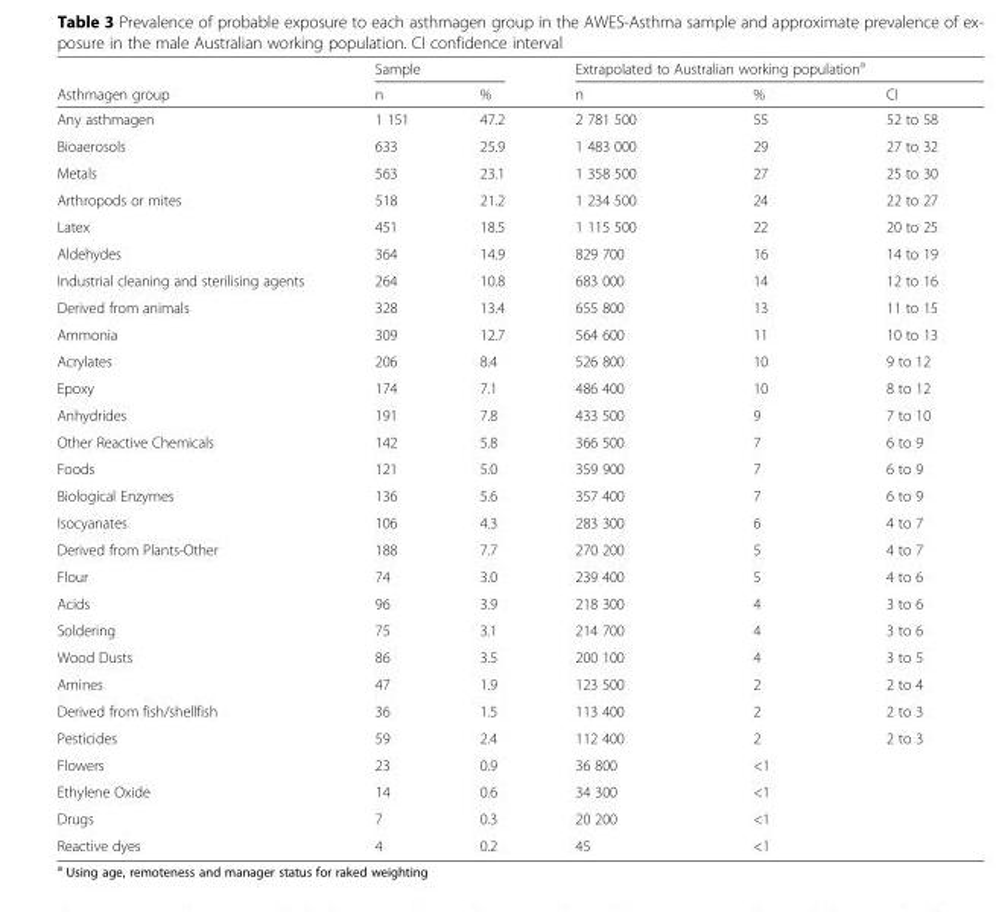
<table><thead><tr><td rowspan="2">Asthmagen group</td><td colspan="2">Sample</td><td colspan="3">Extrapolated to Australian working population<sup>a</sup></td></tr><tr><td>n</td><td>%</td><td>n</td><td>%</td><td>CI</td></tr></thead><tbody><tr><td>Any asthmagen</td><td>1 151</td><td>47.2</td><td>2 781 500</td><td>55</td><td>52 to 58</td></tr><tr><td>Bioaerosols</td><td>633</td><td>25.9</td><td>1 483 000</td><td>29</td><td>27 to 32</td></tr><tr><td>Metals</td><td>563</td><td>23.1</td><td>1 358 500</td><td>27</td><td>25 to 30</td></tr><tr><td>Arthropods or mites</td><td>518</td><td>21.2</td><td>1 234 500</td><td>24</td><td>22 to 27</td></tr><tr><td>Latex</td><td>451</td><td>18.5</td><td>1 115 500</td><td>22</td><td>20 to 25</td></tr><tr><td>Aldehydes</td><td>364</td><td>14.9</td><td>829 700</td><td>16</td><td>14 to 19</td></tr><tr><td>Industrial cleaning and sterilising agents</td><td>264</td><td>10.8</td><td>683 000</td><td>14</td><td>12 to 16</td></tr><tr><td>Derived from animals</td><td>328</td><td>13.4</td><td>655 800</td><td>13</td><td>11 to 15</td></tr><tr><td>Ammonia</td><td>309</td><td>12.7</td><td>564 600</td><td>11</td><td>10 to 13</td></tr><tr><td>Acrylates</td><td>206</td><td>8.4</td><td>526 800</td><td>10</td><td>9 to 12</td></tr><tr><td>Epoxy</td><td>174</td><td>7.1</td><td>486 400</td><td>10</td><td>8 to 12</td></tr><tr><td>Anhydrides</td><td>191</td><td>7.8</td><td>433 500</td><td>9</td><td>7 to 10</td></tr><tr><td>Other Reactive Chemicals</td><td>142</td><td>5.8</td><td>366 500</td><td>7</td><td>6 to 9</td></tr><tr><td>Foods</td><td>121</td><td>5.0</td><td>359 900</td><td>7</td><td>6 to 9</td></tr><tr><td>Biological Enzymes</td><td>136</td><td>5.6</td><td>357 400</td><td>7</td><td>6 to 9</td></tr><tr><td>Isocyanates</td><td>106</td><td>4.3</td><td>283 300</td><td>6</td><td>4 to 7</td></tr><tr><td>Derived from Plants-Other</td><td>188</td><td>7.7</td><td>270 200</td><td>5</td><td>4 to 7</td></tr><tr><td>Flour</td><td>74</td><td>3.0</td><td>239 400</td><td>5</td><td>4 to 6</td></tr><tr><td>Acids</td><td>96</td><td>3.9</td><td>218 300</td><td>4</td><td>3 to 6</td></tr><tr><td>Soldering</td><td>75</td><td>3.1</td><td>214 700</td><td>4</td><td>3 to 6</td></tr><tr><td>Wood Dusts</td><td>86</td><td>3.5</td><td>200 100</td><td>4</td><td>3 to 5</td></tr><tr><td>Amines</td><td>47</td><td>1.9</td><td>123 500</td><td>2</td><td>2 to 4</td></tr><tr><td>Derived from fish/shellfish</td><td>36</td><td>1.5</td><td>113 400</td><td>2</td><td>2 to 3</td></tr><tr><td>Pesticides</td><td>59</td><td>2.4</td><td>112 400</td><td>2</td><td>2 to 3</td></tr><tr><td>Flowers</td><td>23</td><td>0.9</td><td>36 800</td><td>&lt;1</td><td></td></tr><tr><td>Ethylene Oxide</td><td>14</td><td>0.6</td><td>34 300</td><td>&lt;1</td><td></td></tr><tr><td>Drugs</td><td>7</td><td>0.3</td><td>20 200</td><td>&lt;1</td><td></td></tr><tr><td>Reactive dyes</td><td>4</td><td>0.2</td><td>45</td><td>&lt;1</td><td></td></tr></tbody></table>